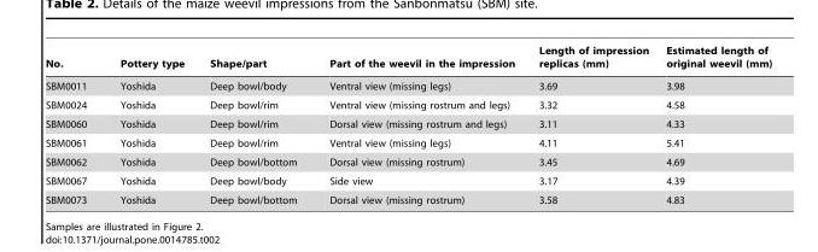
<table><thead><tr><td>No.</td><td>Pottery type</td><td>Shape/part</td><td>Part of the weevil in the impression</td><td>Length of impression replicas (mm)</td><td>Estimated length of original weevil (mm)</td></tr></thead><tbody><tr><td>SBM0011</td><td>Yoshida</td><td>Deep bowl/body</td><td>Ventral view (missing legs)</td><td>3.69</td><td>3.98</td></tr><tr><td>SBM0024</td><td>Yoshida</td><td>Deep bowl/rim</td><td>Ventral view (missing rostrum and legs)</td><td>3.32</td><td>4.58</td></tr><tr><td>SBM0060</td><td>Yoshida</td><td>Deep bowl/rim</td><td>Dorsal view (missing rostrum and legs)</td><td>3.11</td><td>4.33</td></tr><tr><td>SBM0061</td><td>Yoshida</td><td>Deep bowl/rim</td><td>Ventral view (missing legs)</td><td>4.11</td><td>5.41</td></tr><tr><td>SBM0062</td><td>Yoshida</td><td>Deep bowl/bottom</td><td>Dorsal view (missing rostrum)</td><td>3.45</td><td>4.69</td></tr><tr><td>SBM0067</td><td>Yoshida</td><td>Deep bowl/body</td><td>Side view</td><td>3.17</td><td>4.39</td></tr><tr><td>SBM0073</td><td>Yoshida</td><td>Deep bowl/bottom</td><td>Dorsal view (missing rostrum)</td><td>3.58</td><td>4.83</td></tr></tbody></table>